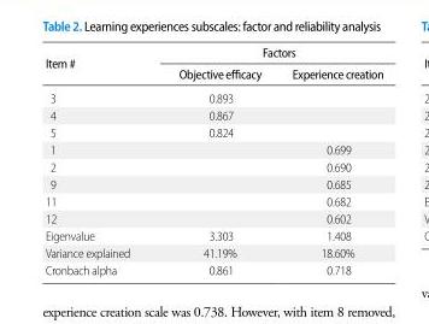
<table><thead><tr><td rowspan="2">Item #</td><td colspan="2">Factors</td></tr><tr><td>Objective efficacy</td><td>Experience creation</td></tr></thead><tbody><tr><td>3</td><td>0.893</td><td></td></tr><tr><td>4</td><td>0.867</td><td></td></tr><tr><td>5</td><td>0.824</td><td></td></tr><tr><td>1</td><td></td><td>0.699</td></tr><tr><td>2</td><td></td><td>0.690</td></tr><tr><td>9</td><td></td><td>0.685</td></tr><tr><td>11</td><td></td><td>0.682</td></tr><tr><td>12</td><td></td><td>0.602</td></tr><tr><td>Eigenvalue</td><td>3.303</td><td>1.408</td></tr><tr><td>Variance explained</td><td>41.19%</td><td>18.60%</td></tr><tr><td>Cronbach alpha</td><td>0.861</td><td>0.718</td></tr></tbody></table>